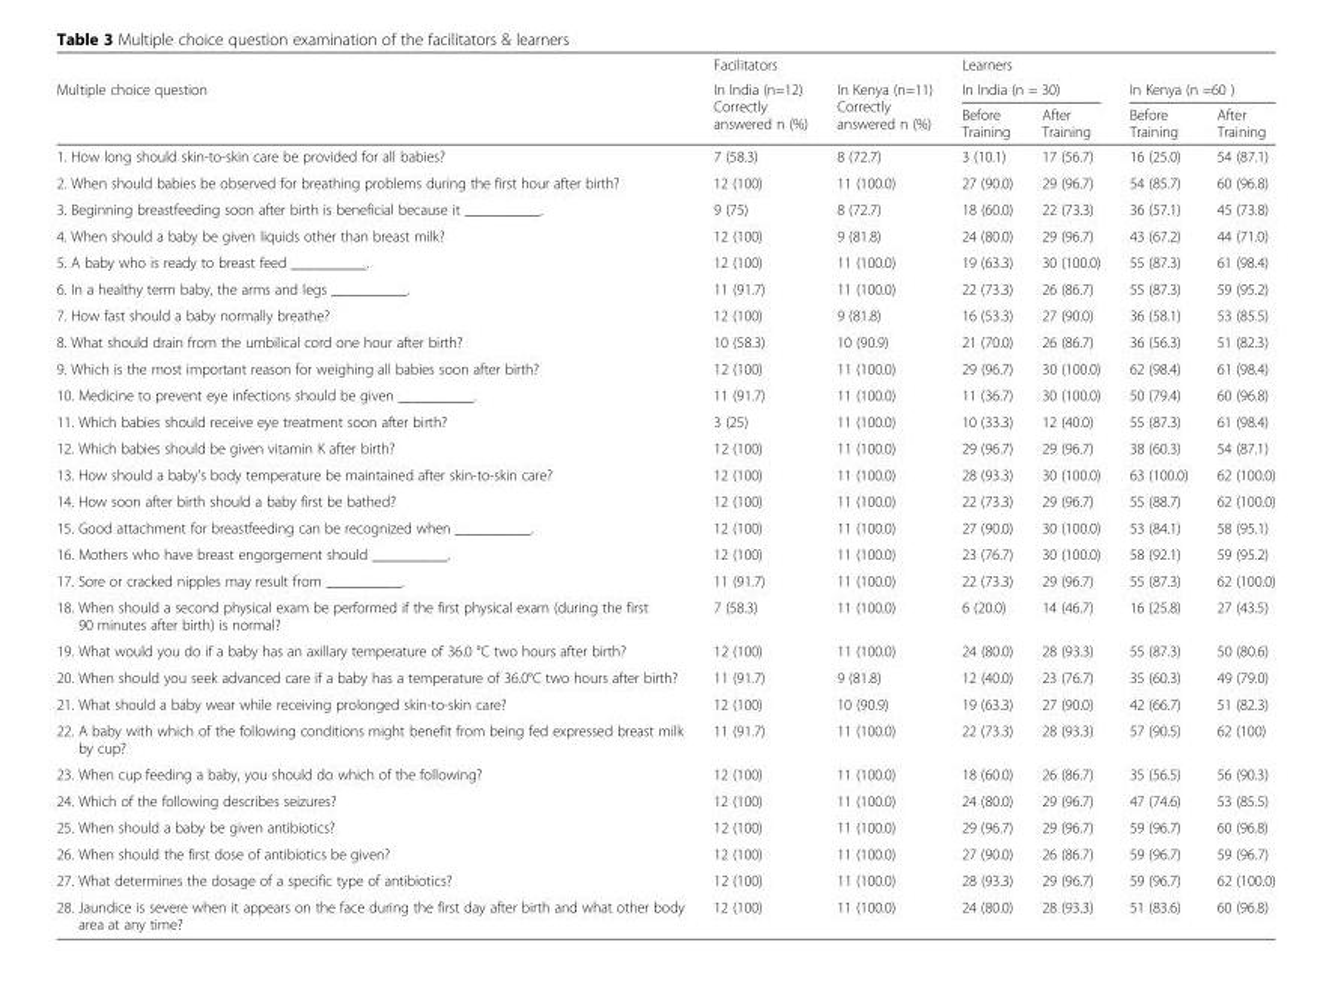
<table><thead><tr><td rowspan="3">Multiple choice question</td><td colspan="2">Facilitators</td><td colspan="4">Learners</td></tr><tr><td rowspan="2">In India (n=12) Correctly answered n (%)</td><td rowspan="2">In Kenya (n=11) Correctly answered n (%)</td><td colspan="2">In India (n = 30)</td><td colspan="2">In Kenya (n =60 )</td></tr><tr><td>Before Training</td><td>After Training</td><td>Before Training</td><td>After Training</td></tr></thead><tbody><tr><td>1. How long should skin-to-skin care be provided for all babies?</td><td>7 (58.3)</td><td>8 (72.7)</td><td>3 (10.1)</td><td>17 (56.7)</td><td>16 (25.0)</td><td>54 (87.1)</td></tr><tr><td>2. When should babies be observed for breathing problems during the first hour after birth?</td><td>12 (100)</td><td>11 (100.0)</td><td>27 (90.0)</td><td>29 (96.7)</td><td>54 (85.7)</td><td>60 (96.8)</td></tr><tr><td>3. Beginning breastfeeding soon after birth is beneficial because it __________.</td><td>9 (75)</td><td>8 (72.7)</td><td>18 (60.0)</td><td>22 (73.3)</td><td>36 (57.1)</td><td>45 (73.8)</td></tr><tr><td>4. When should a baby be given liquids other than breast milk?</td><td>12 (100)</td><td>9 (81.8)</td><td>24 (80.0)</td><td>29 (96.7)</td><td>43 (67.2)</td><td>44 (71.0)</td></tr><tr><td>5. A baby who is ready to breast feed __________.</td><td>12 (100)</td><td>11 (100.0)</td><td>19 (63.3)</td><td>30 (100.0)</td><td>55 (87.3)</td><td>61 (98.4)</td></tr><tr><td>6. In a healthy term baby, the arms and legs __________.</td><td>11 (91.7)</td><td>11 (100.0)</td><td>22 (73.3)</td><td>26 (86.7)</td><td>55 (87.3)</td><td>59 (95.2)</td></tr><tr><td>7. How fast should a baby normally breathe?</td><td>12 (100)</td><td>9 (81.8)</td><td>16 (53.3)</td><td>27 (90.0)</td><td>36 (58.1)</td><td>53 (85.5)</td></tr><tr><td>8. What should drain from the umbilical cord one hour after birth?</td><td>10 (58.3)</td><td>10 (90.9)</td><td>21 (70.0)</td><td>26 (86.7)</td><td>36 (56.3)</td><td>51 (82.3)</td></tr><tr><td>9. Which is the most important reason for weighing all babies soon after birth?</td><td>12 (100)</td><td>11 (100.0)</td><td>29 (96.7)</td><td>30 (100.0)</td><td>62 (98.4)</td><td>61 (98.4)</td></tr><tr><td>10. Medicine to prevent eye infections should be given __________.</td><td>11 (91.7)</td><td>11 (100.0)</td><td>11 (36.7)</td><td>30 (100.0)</td><td>50 (79.4)</td><td>60 (96.8)</td></tr><tr><td>11. Which babies should receive eye treatment soon after birth?</td><td>3 (25)</td><td>11 (100.0)</td><td>10 (33.3)</td><td>12 (40.0)</td><td>55 (87.3)</td><td>61 (98.4)</td></tr><tr><td>12. Which babies should be given vitamin K after birth?</td><td>12 (100)</td><td>11 (100.0)</td><td>29 (96.7)</td><td>29 (96.7)</td><td>38 (60.3)</td><td>54 (87.1)</td></tr><tr><td>13. How should a baby&#x27;s body temperature be maintained after skin-to-skin care?</td><td>12 (100)</td><td>11 (100.0)</td><td>28 (93.3)</td><td>30 (100.0)</td><td>63 (100.0)</td><td>62 (100.0)</td></tr><tr><td>14. How soon after birth should a baby first be bathed?</td><td>12 (100)</td><td>11 (100.0)</td><td>22 (73.3)</td><td>29 (96.7)</td><td>55 (88.7)</td><td>62 (100.0)</td></tr><tr><td>15. Good attachment for breastfeeding can be recognized when __________.</td><td>12 (100)</td><td>11 (100.0)</td><td>27 (90.0)</td><td>30 (100.0)</td><td>53 (84.1)</td><td>58 (95.1)</td></tr><tr><td>16. Mothers who have breast engorgement should __________.</td><td>12 (100)</td><td>11 (100.0)</td><td>23 (76.7)</td><td>30 (100.0)</td><td>58 (92.1)</td><td>59 (95.2)</td></tr><tr><td>17. Sore or cracked nipples may result from __________.</td><td>11 (91.7)</td><td>11 (100.0)</td><td>22 (73.3)</td><td>29 (96.7)</td><td>55 (87.3)</td><td>62 (100.0)</td></tr><tr><td>18. When should a second physical exam be performed if the first physical exam (during the first 90 minutes after birth) is normal?</td><td>7 (58.3)</td><td>11 (100.0)</td><td>6 (20.0)</td><td>14 (46.7)</td><td>16 (25.8)</td><td>27 (43.5)</td></tr><tr><td>19. What would you do if a baby has an axillary temperature of 36.0 °C two hours after birth?</td><td>12 (100)</td><td>11 (100.0)</td><td>24 (80.0)</td><td>28 (93.3)</td><td>55 (87.3)</td><td>50 (80.6)</td></tr><tr><td>20. When should you seek advanced care if a baby has a temperature of 36.0°C two hours after birth?</td><td>11 (91.7)</td><td>9 (81.8)</td><td>12 (40.0)</td><td>23 (76.7)</td><td>35 (60.3)</td><td>49 (79.0)</td></tr><tr><td>21. What should a baby wear while receiving prolonged skin-to-skin care?</td><td>12 (100)</td><td>10 (90.9)</td><td>19 (63.3)</td><td>27 (90.0)</td><td>42 (66.7)</td><td>51 (82.3)</td></tr><tr><td>22. A baby with which of the following conditions might benefit from being fed expressed breast milk by cup?</td><td>11 (91.7)</td><td>11 (100.0)</td><td>22 (73.3)</td><td>28 (93.3)</td><td>57 (90.5)</td><td>62 (100)</td></tr><tr><td>23. When cup feeding a baby, you should do which of the following?</td><td>12 (100)</td><td>11 (100.0)</td><td>18 (60.0)</td><td>26 (86.7)</td><td>35 (56.5)</td><td>56 (90.3)</td></tr><tr><td>24. Which of the following describes seizures?</td><td>12 (100)</td><td>11 (100.0)</td><td>24 (80.0)</td><td>29 (96.7)</td><td>47 (74.6)</td><td>53 (85.5)</td></tr><tr><td>25. When should a baby be given antibiotics?</td><td>12 (100)</td><td>11 (100.0)</td><td>29 (96.7)</td><td>29 (96.7)</td><td>59 (96.7)</td><td>60 (96.8)</td></tr><tr><td>26. When should the first dose of antibiotics be given?</td><td>12 (100)</td><td>11 (100.0)</td><td>27 (90.0)</td><td>26 (86.7)</td><td>59 (96.7)</td><td>59 (96.7)</td></tr><tr><td>27. What determines the dosage of a specific type of antibiotics?</td><td>12 (100)</td><td>11 (100.0)</td><td>28 (93.3)</td><td>29 (96.7)</td><td>59 (96.7)</td><td>62 (100.0)</td></tr><tr><td>28. Jaundice is severe when it appears on the face during the first day after birth and what other body area at any time?</td><td>12 (100)</td><td>11 (100.0)</td><td>24 (80.0)</td><td>28 (93.3)</td><td>51 (83.6)</td><td>60 (96.8)</td></tr></tbody></table>